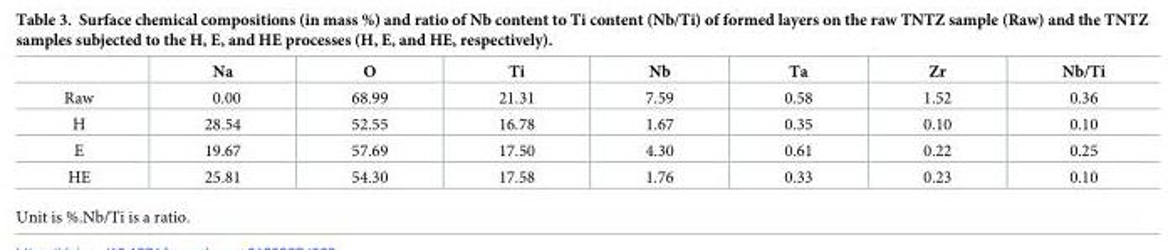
<table><thead><tr><td></td><td>Na</td><td>O</td><td>Ti</td><td>Nb</td><td>Ta</td><td>Zr</td><td>Nb/Ti</td></tr></thead><tbody><tr><td>Raw</td><td>0.00</td><td>68.99</td><td>21.31</td><td>7.59</td><td>0.58</td><td>1.52</td><td>0.36</td></tr><tr><td>H</td><td>28.54</td><td>52.55</td><td>16.78</td><td>1.67</td><td>0.35</td><td>0.10</td><td>0.10</td></tr><tr><td>E</td><td>19.67</td><td>57.69</td><td>17.50</td><td>4.30</td><td>0.61</td><td>0.22</td><td>0.25</td></tr><tr><td>HE</td><td>25.81</td><td>54.30</td><td>17.58</td><td>1.76</td><td>0.33</td><td>0.23</td><td>0.10</td></tr></tbody></table>